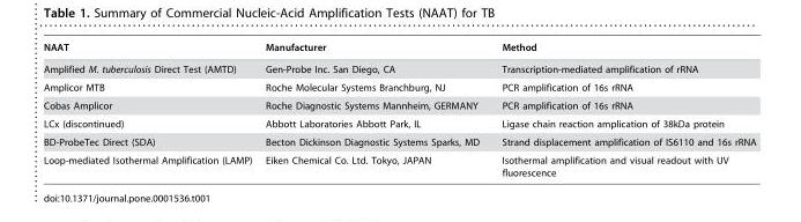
<table><thead><tr><td>NAAT</td><td>Manufacturer</td><td>Method</td></tr></thead><tbody><tr><td>Amplified M. tuberculosis Direct Test (AMTD)</td><td>Gen-Probe Inc. San Diego, CA</td><td>Transcription-mediated amplification of rRNA</td></tr><tr><td>Amplicor MTB</td><td>Roche Molecular Systems Branchburg, NJ</td><td>PCR amplification of 16s rRNA</td></tr><tr><td>Cobas Amplicor</td><td>Roche Diagnostic Systems Mannheim, GERMANY</td><td>PCR amplification of 16s rRNA</td></tr><tr><td>LCx (discontinued)</td><td>Abbott Laboratories Abbott Park, IL</td><td>Ligase chain reaction amplication of 38kDa protein</td></tr><tr><td>BD-ProbeTec Direct (SDA)</td><td>Becton Dickinson Diagnostic Systems Sparks, MD</td><td>Strand displacement amplification of IS6110 and 16s rRNA</td></tr><tr><td>Loop-mediated Isothermal Amplification (LAMP)</td><td>Eiken Chemical Co. Ltd. Tokyo, JAPAN</td><td>Isothermal amplification and visual readout with UV fluorescence</td></tr></tbody></table>